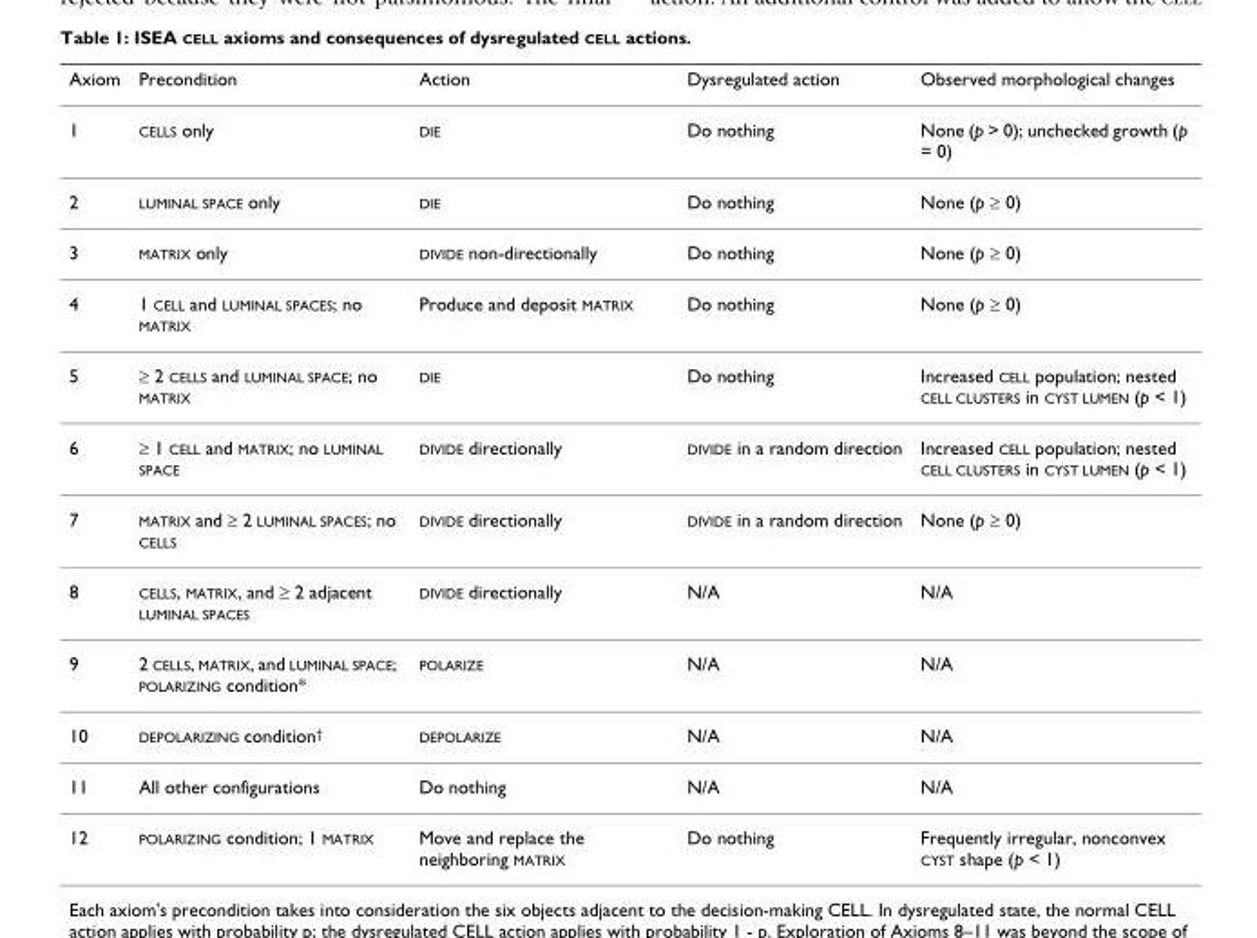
<table><thead><tr><td>Axiom</td><td>Precondition</td><td>Action</td><td>Dysregulated action</td><td>Observed morphological changes</td></tr></thead><tbody><tr><td>1</td><td>CELLS only</td><td>DIE</td><td>Do nothing</td><td>None (p &gt; 0); unchecked growth (p = 0)</td></tr><tr><td>2</td><td>LUMINAL SPACE only</td><td>DIE</td><td>Do nothing</td><td>None (p ≥ 0)</td></tr><tr><td>3</td><td>MATRIX only</td><td>DIVIDE non-directionally</td><td>Do nothing</td><td>None (p ≥ 0)</td></tr><tr><td>4</td><td>1 CELL and LUMINAL SPACES; no MATRIX</td><td>Produce and deposit MATRIX</td><td>Do nothing</td><td>None (p ≥ 0)</td></tr><tr><td>5</td><td>≥ 2 CELLS and LUMINAL SPACE; no MATRIX</td><td>DIE</td><td>Do nothing</td><td>Increased CELL population; nested CELL CLUSTERS in CYST LUMEN (p &lt; 1)</td></tr><tr><td>6</td><td>≥ 1 CELL and MATRIX; no LUMINAL SPACE</td><td>DIVIDE directionally</td><td>DIVIDE in a random direction</td><td>Increased CELL population; nested CELL CLUSTERS in CYST LUMEN (p &lt; 1)</td></tr><tr><td>7</td><td>MATRIX and ≥ 2 LUMINAL SPACES; no CELLS</td><td>DIVIDE directionally</td><td>DIVIDE in a random direction</td><td>None (p ≥ 0)</td></tr><tr><td>8</td><td>CELLS, MATRIX, and ≥ 2 adjacent LUMINAL SPACES</td><td>DIVIDE directionally</td><td>N/A</td><td>N/A</td></tr><tr><td>9</td><td>2 CELLS, MATRIX, and LUMINAL SPACE; POLARIZING condition*</td><td>POLARIZE</td><td>N/A</td><td>N/A</td></tr><tr><td>10</td><td>DEPOLARIZING condition<sup>†</sup></td><td>DEPOLARIZE</td><td>N/A</td><td>N/A</td></tr><tr><td>11</td><td>All other configurations</td><td>Do nothing</td><td>N/A</td><td>N/A</td></tr><tr><td>12</td><td>POLARIZING condition; 1 MATRIX</td><td>Move and replace the neighboring MATRIX</td><td>Do nothing</td><td>Frequently irregular, nonconvex CYST shape (p &lt; 1)</td></tr></tbody></table>